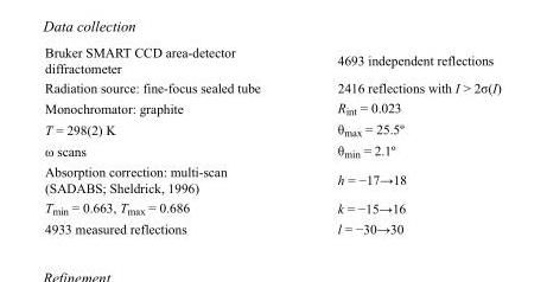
<table><tbody><tr><td>Bruker SMART CCD area-detector diffractometer</td><td>4693 independent reflections</td></tr><tr><td>Radiation source: fine-focus sealed tube</td><td>2416 reflections with I &gt; 2σ(I)</td></tr><tr><td>Monochromator: graphite</td><td>R<sub>int</sub> = 0.023</td></tr><tr><td>T = 298(2) K</td><td>θ<sub>max</sub> = 25.5º</td></tr><tr><td>ω scans</td><td>θ<sub>min</sub> = 2.1º</td></tr><tr><td>Absorption correction: multi-scan (SADABS; Sheldrick, 1996)</td><td>h = −17→18</td></tr><tr><td>T<sub>min</sub> = 0.663, T<sub>max</sub> = 0.686</td><td>k = −15→16</td></tr><tr><td>4933 measured reflections</td><td>l = −30→30</td></tr></tbody></table>